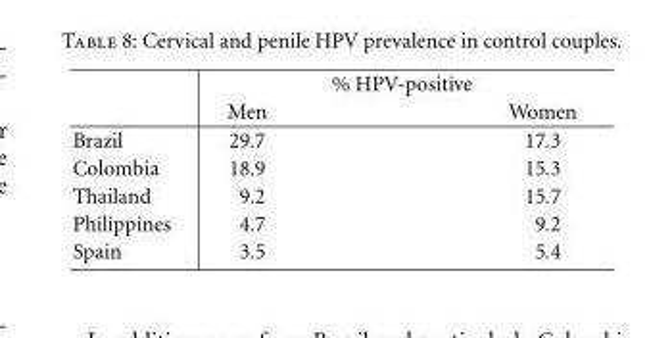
<table><thead><tr><td rowspan="2"></td><td colspan="2">% HPV-positive</td></tr><tr><td>Men</td><td>Women</td></tr></thead><tbody><tr><td>Brazil</td><td>29.7</td><td>17.3</td></tr><tr><td>Colombia</td><td>18.9</td><td>15.3</td></tr><tr><td>Thailand</td><td>9.2</td><td>15.7</td></tr><tr><td>Philippines</td><td>4.7</td><td>9.2</td></tr><tr><td>Spain</td><td>3.5</td><td>5.4</td></tr></tbody></table>